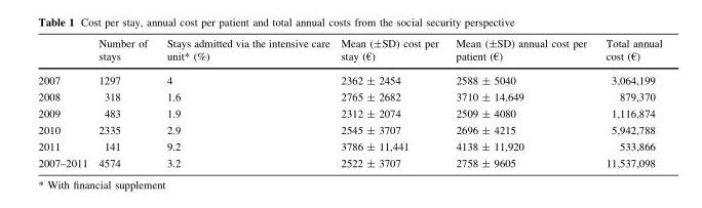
<table><thead><tr><td></td><td>Number of stays</td><td>Stays admitted via the intensive care unit* (%)</td><td>Mean (±SD) cost per stay (€)</td><td>Mean (±SD) annual cost per patient (€)</td><td>Total annual cost (€)</td></tr></thead><tbody><tr><td>2007</td><td>1297</td><td>4</td><td>2362 ± 2454</td><td>2588 ± 5040</td><td>3,064,199</td></tr><tr><td>2008</td><td>318</td><td>1.6</td><td>2765 ± 2682</td><td>3710 ± 14,649</td><td>879,370</td></tr><tr><td>2009</td><td>483</td><td>1.9</td><td>2312 ± 2074</td><td>2509 ± 4080</td><td>1,116,874</td></tr><tr><td>2010</td><td>2335</td><td>2.9</td><td>2545 ± 3707</td><td>2696 ± 4215</td><td>5,942,788</td></tr><tr><td>2011</td><td>141</td><td>9.2</td><td>3786 ± 11,441</td><td>4138 ± 11,920</td><td>533,866</td></tr><tr><td>2007–2011</td><td>4574</td><td>3.2</td><td>2522 ± 3707</td><td>2758 ± 9605</td><td>11,537,098</td></tr></tbody></table>